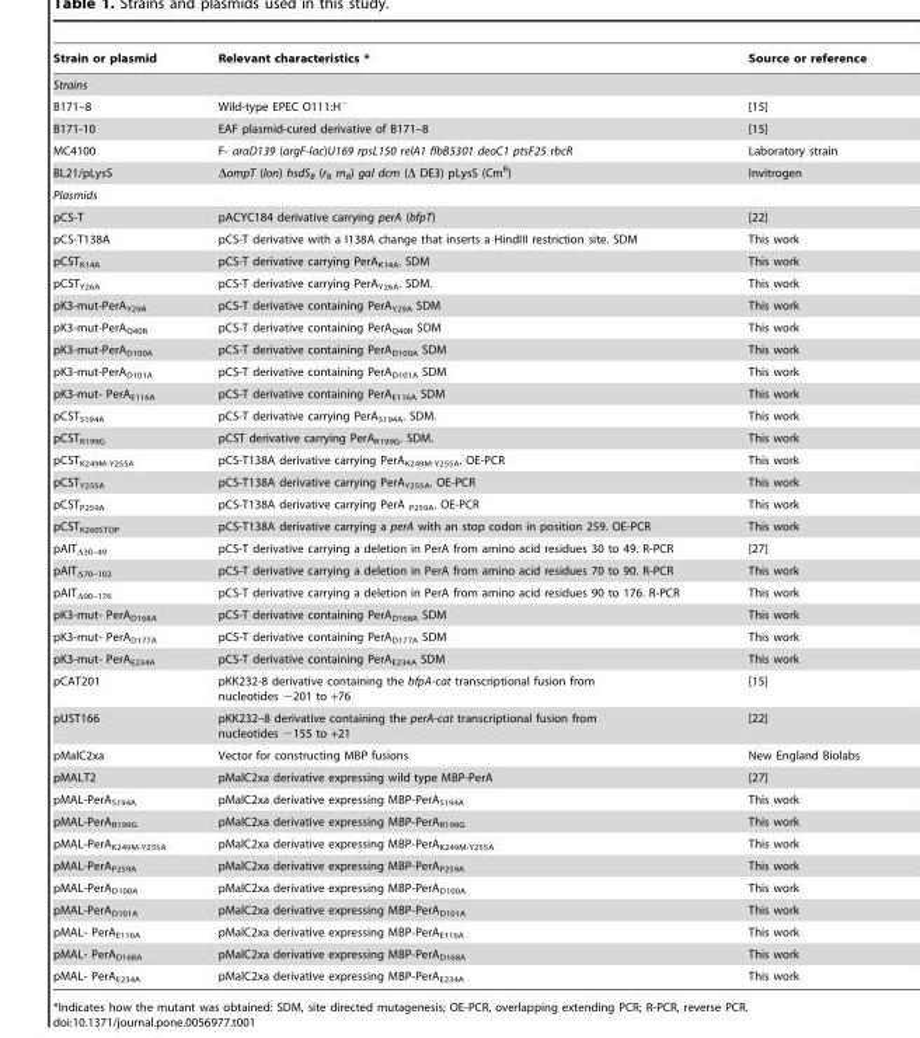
<table><thead><tr><td>Strain or plasmid</td><td>Relevant characteristics *</td><td>Source or reference</td></tr></thead><tbody><tr><td colspan="3">Strains</td></tr><tr><td>B171–8</td><td>Wild-type EPEC O111:H<sup>−</sup></td><td>[15]</td></tr><tr><td>B171-10</td><td>EAF plasmid-cured derivative of B171–8</td><td>[15]</td></tr><tr><td>MC4100</td><td>F- araD139 (argF-lac)U169 rpsL150 relA1 flbB5301 deoC1 ptsF25 rbcR</td><td>Laboratory strain</td></tr><tr><td>BL21/pLysS</td><td>ΔompT (lon) hsdS<sub>B</sub> (r<sub>B</sub> m<sub>B</sub>) gal dcm (Δ DE3) pLysS (Cm<sup>R</sup>)</td><td>Invitrogen</td></tr><tr><td colspan="3">Plasmids</td></tr><tr><td>pCS-T</td><td>pACYC184 derivative carrying perA (bfpT)</td><td>[22]</td></tr><tr><td>pCS-T138A</td><td>pCS-T derivative with a I138A change that inserts a HindIII restriction site. SDM</td><td>This work</td></tr><tr><td>pCST<sub>K14A</sub></td><td>pCS-T derivative carrying PerA<sub>K14A</sub>. SDM</td><td>This work</td></tr><tr><td>pCST<sub>Y26A</sub></td><td>pCS-T derivative carrying PerA<sub>Y26A</sub>. SDM.</td><td>This work</td></tr><tr><td>pK3-mut-PerA<sub>Y29A</sub></td><td>pCS-T derivative containing PerA<sub>Y29A</sub> SDM</td><td>This work</td></tr><tr><td>pK3-mut-PerA<sub>Q40R</sub></td><td>pCS-T derivative containing PerA<sub>Q40R</sub> SDM</td><td>This work</td></tr><tr><td>pK3-mut-PerA<sub>D100A</sub></td><td>pCS-T derivative containing PerA<sub>D100A</sub> SDM</td><td>This work</td></tr><tr><td>pK3-mut-PerA<sub>D101A</sub></td><td>pCS-T derivative containing PerA<sub>D101A</sub> SDM</td><td>This work</td></tr><tr><td>pK3-mut- PerA<sub>E116A</sub></td><td>pCS-T derivative containing PerA<sub>E116A</sub> SDM</td><td>This work</td></tr><tr><td>pCST<sub>S194A</sub></td><td>pCS-T derivative carrying PerA<sub>S194A</sub>. SDM.</td><td>This work</td></tr><tr><td>pCST<sub>R199G</sub></td><td>pCST derivative carrying PerA<sub>R199G</sub>. SDM.</td><td>This work</td></tr><tr><td>pCST<sub>K249M-Y255A</sub></td><td>pCS-T138A derivative carrying PerA<sub>K249M-Y255A</sub>. OE-PCR</td><td>This work</td></tr><tr><td>pCST<sub>Y255A</sub></td><td>pCS-T138A derivative carrying PerA<sub>Y255A</sub>. OE-PCR</td><td>This work</td></tr><tr><td>pCST<sub>P259A</sub></td><td>pCS-T138A derivative carrying PerA <sub>P259A</sub>. OE-PCR</td><td>This work</td></tr><tr><td>pCST<sub>K260STOP</sub></td><td>pCS-T138A derivative carrying a perA with an stop codon in position 259. OE-PCR</td><td>This work</td></tr><tr><td>pAIT<sub>Δ30–49</sub></td><td>pCS-T derivative carrying a deletion in PerA from amino acid residues 30 to 49. R-PCR</td><td>[27]</td></tr><tr><td>pAIT<sub>Δ70–102</sub></td><td>pCS-T derivative carrying a deletion in PerA from amino acid residues 70 to 90. R-PCR</td><td>This work</td></tr><tr><td>pAIT<sub>Δ90–176</sub></td><td>pCS-T derivative carrying a deletion in PerA from amino acid residues 90 to 176. R-PCR</td><td>This work</td></tr><tr><td>pK3-mut- PerA<sub>D168A</sub></td><td>pCS-T derivative containing PerA<sub>D168A</sub> SDM</td><td>This work</td></tr><tr><td>pK3-mut- PerA<sub>D177A</sub></td><td>pCS-T derivative containing PerA<sub>D177A</sub> SDM</td><td>This work</td></tr><tr><td>pK3-mut- PerA<sub>E234A</sub></td><td>pCS-T derivative containing PerA<sub>E234A</sub> SDM</td><td>This work</td></tr><tr><td>pCAT201</td><td>pKK232-8 derivative containing the bfpA-cat transcriptional fusion from nucleotides −201 to +76</td><td>[15]</td></tr><tr><td>pUST166</td><td>pKK232–8 derivative containing the perA-cat transcriptional fusion from nucleotides −155 to +21</td><td>[22]</td></tr><tr><td>pMalC2xa</td><td>Vector for constructing MBP fusions</td><td>New England Biolabs</td></tr><tr><td>pMALT2</td><td>pMalC2xa derivative expressing wild type MBP-PerA</td><td>[27]</td></tr><tr><td>pMAL-PerA<sub>S194A</sub></td><td>pMalC2xa derivative expressing MBP-PerA<sub>S194A</sub></td><td>This work</td></tr><tr><td>pMAL-PerA<sub>R199G</sub></td><td>pMalC2xa derivative expressing MBP-PerA<sub>R199G</sub></td><td>This work</td></tr><tr><td>pMAL-PerA<sub>K249M-Y255A</sub></td><td>pMalC2xa derivative expressing MBP-PerA<sub>K249M-Y255A</sub></td><td>This work</td></tr><tr><td>pMAL-PerA<sub>P259A</sub></td><td>pMalC2xa derivative expressing MBP-PerA<sub>P259A</sub></td><td>This work</td></tr><tr><td>pMAL-PerA<sub>D100A</sub></td><td>pMalC2xa derivative expressing MBP-PerA<sub>D100A</sub></td><td>This work</td></tr><tr><td>pMAL-PerA<sub>D101A</sub></td><td>pMalC2xa derivative expressing MBP-PerA<sub>D101A</sub></td><td>This work</td></tr><tr><td>pMAL- PerA<sub>E116A</sub></td><td>pMalC2xa derivative expressing MBP-PerA<sub>E116A</sub></td><td>This work</td></tr><tr><td>pMAL- PerA<sub>D168A</sub></td><td>pMalC2xa derivative expressing MBP-PerA<sub>D168A</sub></td><td>This work</td></tr><tr><td>pMAL- PerA<sub>E234A</sub></td><td>pMalC2xa derivative expressing MBP-PerA<sub>E234A</sub></td><td>This work</td></tr></tbody></table>